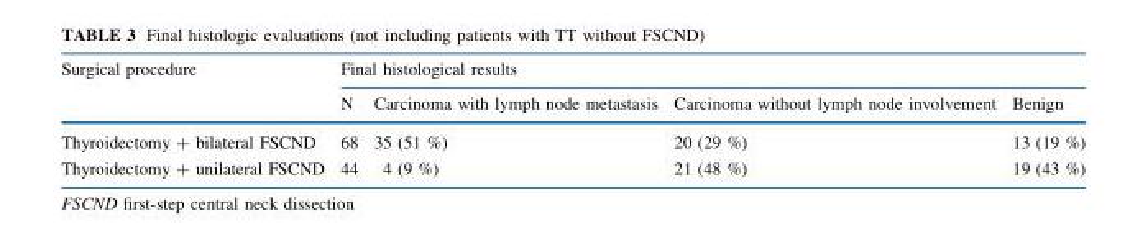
<table><thead><tr><td rowspan="2">Surgical procedure</td><td colspan="4">Final histological results</td></tr><tr><td>N</td><td>Carcinoma with lymph node metastasis</td><td>Carcinoma without lymph node involvement</td><td>Benign</td></tr></thead><tbody><tr><td>Thyroidectomy + bilateral FSCND</td><td>68</td><td>35 (51 %)</td><td>20 (29 %)</td><td>13 (19 %)</td></tr><tr><td>Thyroidectomy + unilateral FSCND</td><td>44</td><td>4 (9 %)</td><td>21 (48 %)</td><td>19 (43 %)</td></tr></tbody></table>